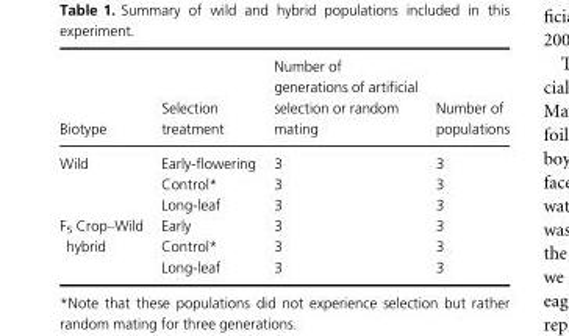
<table><thead><tr><td>Biotype</td><td>Selection treatment</td><td>Number of generations of artificial selection or random mating</td><td>Number of populations</td></tr></thead><tbody><tr><td rowspan="3">Wild</td><td>Early-flowering</td><td>3</td><td>3</td></tr><tr><td>Control*</td><td>3</td><td>3</td></tr><tr><td>Long-leaf</td><td>3</td><td>3</td></tr><tr><td rowspan="3">F<sub>5</sub> Crop–Wild hybrid</td><td>Early</td><td>3</td><td>3</td></tr><tr><td>Control*</td><td>3</td><td>3</td></tr><tr><td>Long-leaf</td><td>3</td><td>3</td></tr></tbody></table>